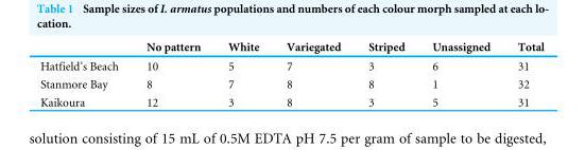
<table><thead><tr><td></td><td>No pattern</td><td>White</td><td>Variegated</td><td>Striped</td><td>Unassigned</td><td>Total</td></tr></thead><tbody><tr><td>Hatfield’s Beach</td><td>10</td><td>5</td><td>7</td><td>3</td><td>6</td><td>31</td></tr><tr><td>Stanmore Bay</td><td>8</td><td>7</td><td>8</td><td>8</td><td>1</td><td>32</td></tr><tr><td>Kaikoura</td><td>12</td><td>3</td><td>8</td><td>3</td><td>5</td><td>31</td></tr></tbody></table>